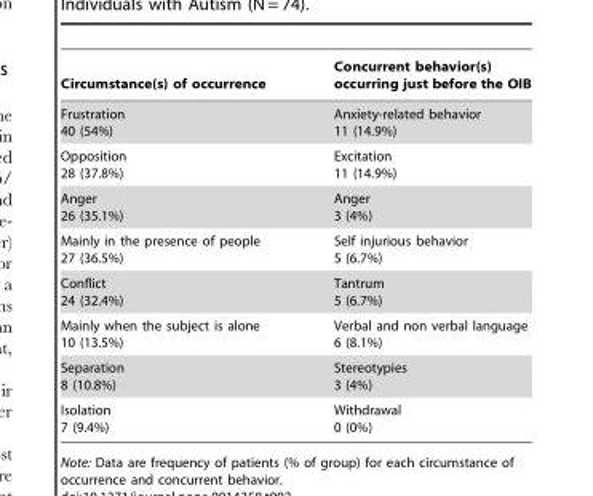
<table><thead><tr><td>Circumstance(s) of occurrence</td><td>Concurrent behavior(s) occurring just before the OIB</td></tr></thead><tbody><tr><td>Frustration 40 (54%)</td><td>Anxiety-related behavior 11 (14.9%)</td></tr><tr><td>Opposition 28 (37.8%)</td><td>Excitation 11 (14.9%)</td></tr><tr><td>Anger 26 (35.1%)</td><td>Anger 3 (4%)</td></tr><tr><td>Mainly in the presence of people 27 (36.5%)</td><td>Self injurious behavior 5 (6.7%)</td></tr><tr><td>Conflict 24 (32.4%)</td><td>Tantrum 5 (6.7%)</td></tr><tr><td>Mainly when the subject is alone 10 (13.5%)</td><td>Verbal and non verbal language 6 (8.1%)</td></tr><tr><td>Separation 8 (10.8%)</td><td>Stereotypies 3 (4%)</td></tr><tr><td>Isolation 7 (9.4%)</td><td>Withdrawal 0 (0%)</td></tr></tbody></table>